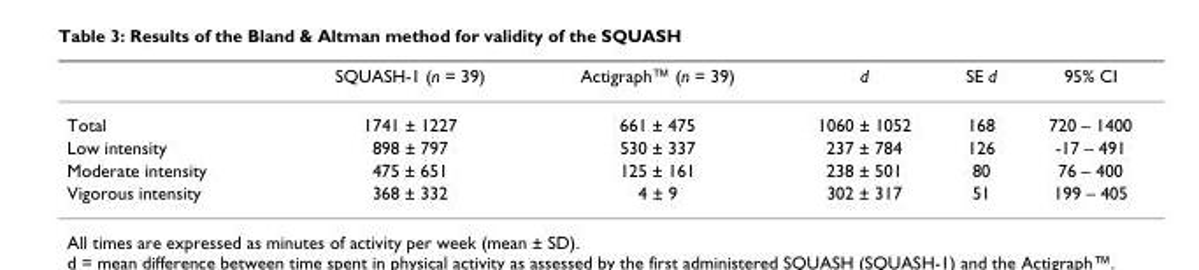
<table><thead><tr><td></td><td>SQUASH-1 (n = 39)</td><td>Actigraph™ (n = 39)</td><td>d</td><td>SE d</td><td>95% CI</td></tr></thead><tbody><tr><td>Total</td><td>1741 ± 1227</td><td>661 ± 475</td><td>1060 ± 1052</td><td>168</td><td>720 – 1400</td></tr><tr><td>Low intensity</td><td>898 ± 797</td><td>530 ± 337</td><td>237 ± 784</td><td>126</td><td>-17 – 491</td></tr><tr><td>Moderate intensity</td><td>475 ± 651</td><td>125 ± 161</td><td>238 ± 501</td><td>80</td><td>76 – 400</td></tr><tr><td>Vigorous intensity</td><td>368 ± 332</td><td>4 ± 9</td><td>302 ± 317</td><td>51</td><td>199 – 405</td></tr></tbody></table>